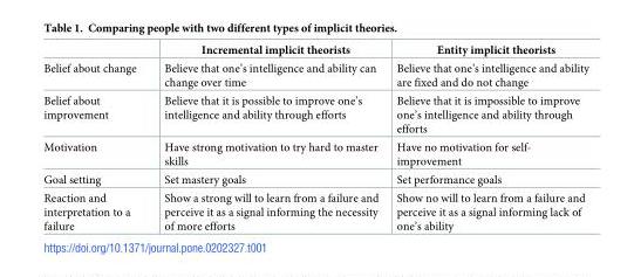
<table><thead><tr><td></td><td>Incremental implicit theorists</td><td>Entity implicit theorists</td></tr></thead><tbody><tr><td>Belief about change</td><td>Believe that one’s intelligence and ability can change over time</td><td>Believe that one’s intelligence and ability are fixed and do not change</td></tr><tr><td>Belief about improvement</td><td>Believe that it is possible to improve one’s intelligence and ability through efforts</td><td>Believe that it is impossible to improve one’s intelligence and ability through efforts</td></tr><tr><td>Motivation</td><td>Have strong motivation to try hard to master skills</td><td>Have no motivation for self- improvement</td></tr><tr><td>Goal setting</td><td>Set mastery goals</td><td>Set performance goals</td></tr><tr><td>Reaction and interpretation to a failure</td><td>Show a strong will to learn from a failure and perceive it as a signal informing the necessity of more efforts</td><td>Show no will to learn from a failure and perceive it as a signal informing lack of one’s ability</td></tr></tbody></table>